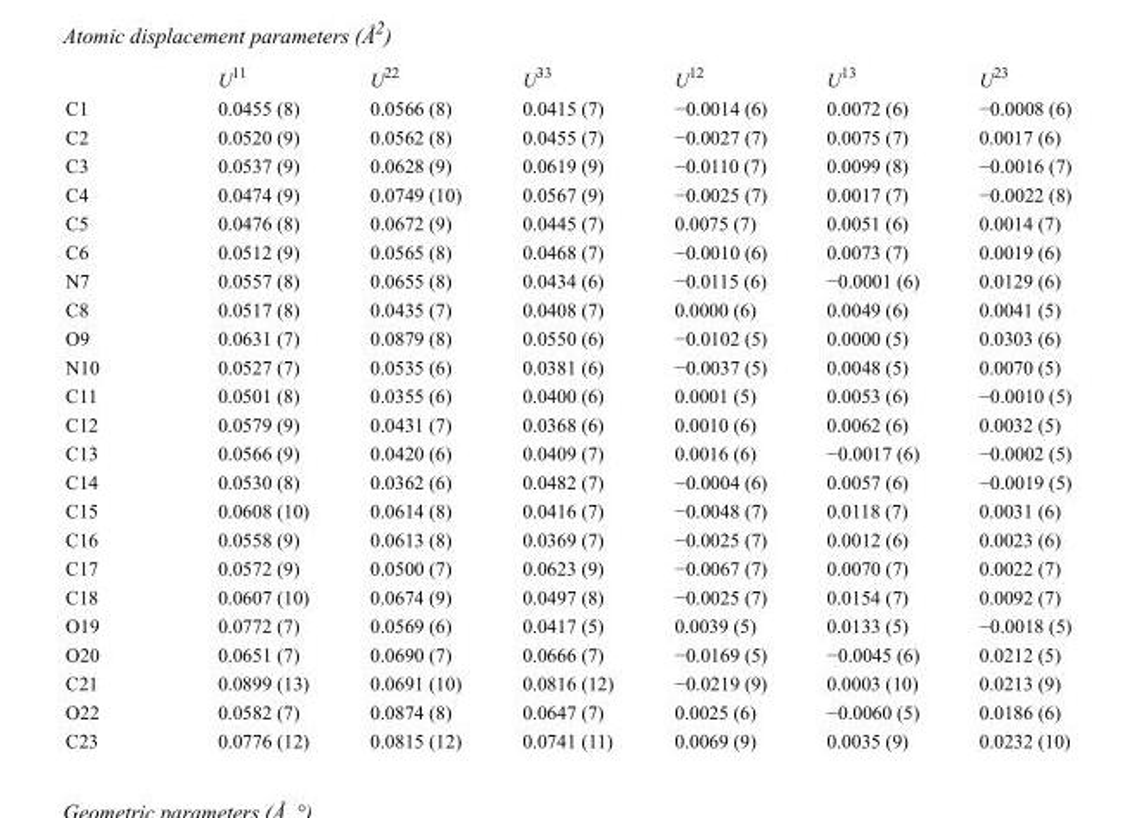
<table><thead><tr><td></td><td>U<sup>11</sup></td><td>U<sup>22</sup></td><td>U<sup>33</sup></td><td>U<sup>12</sup></td><td>U<sup>13</sup></td><td>U<sup>23</sup></td></tr></thead><tbody><tr><td>C1</td><td>0.0455 (8)</td><td>0.0566 (8)</td><td>0.0415 (7)</td><td>−0.0014 (6)</td><td>0.0072 (6)</td><td>−0.0008 (6)</td></tr><tr><td>C2</td><td>0.0520 (9)</td><td>0.0562 (8)</td><td>0.0455 (7)</td><td>−0.0027 (7)</td><td>0.0075 (7)</td><td>0.0017 (6)</td></tr><tr><td>C3</td><td>0.0537 (9)</td><td>0.0628 (9)</td><td>0.0619 (9)</td><td>−0.0110 (7)</td><td>0.0099 (8)</td><td>−0.0016 (7)</td></tr><tr><td>C4</td><td>0.0474 (9)</td><td>0.0749 (10)</td><td>0.0567 (9)</td><td>−0.0025 (7)</td><td>0.0017 (7)</td><td>−0.0022 (8)</td></tr><tr><td>C5</td><td>0.0476 (8)</td><td>0.0672 (9)</td><td>0.0445 (7)</td><td>0.0075 (7)</td><td>0.0051 (6)</td><td>0.0014 (7)</td></tr><tr><td>C6</td><td>0.0512 (9)</td><td>0.0565 (8)</td><td>0.0468 (7)</td><td>−0.0010 (6)</td><td>0.0073 (7)</td><td>0.0019 (6)</td></tr><tr><td>N7</td><td>0.0557 (8)</td><td>0.0655 (8)</td><td>0.0434 (6)</td><td>−0.0115 (6)</td><td>−0.0001 (6)</td><td>0.0129 (6)</td></tr><tr><td>C8</td><td>0.0517 (8)</td><td>0.0435 (7)</td><td>0.0408 (7)</td><td>0.0000 (6)</td><td>0.0049 (6)</td><td>0.0041 (5)</td></tr><tr><td>O9</td><td>0.0631 (7)</td><td>0.0879 (8)</td><td>0.0550 (6)</td><td>−0.0102 (5)</td><td>0.0000 (5)</td><td>0.0303 (6)</td></tr><tr><td>N10</td><td>0.0527 (7)</td><td>0.0535 (6)</td><td>0.0381 (6)</td><td>−0.0037 (5)</td><td>0.0048 (5)</td><td>0.0070 (5)</td></tr><tr><td>C11</td><td>0.0501 (8)</td><td>0.0355 (6)</td><td>0.0400 (6)</td><td>0.0001 (5)</td><td>0.0053 (6)</td><td>−0.0010 (5)</td></tr><tr><td>C12</td><td>0.0579 (9)</td><td>0.0431 (7)</td><td>0.0368 (6)</td><td>0.0010 (6)</td><td>0.0062 (6)</td><td>0.0032 (5)</td></tr><tr><td>C13</td><td>0.0566 (9)</td><td>0.0420 (6)</td><td>0.0409 (7)</td><td>0.0016 (6)</td><td>−0.0017 (6)</td><td>−0.0002 (5)</td></tr><tr><td>C14</td><td>0.0530 (8)</td><td>0.0362 (6)</td><td>0.0482 (7)</td><td>−0.0004 (6)</td><td>0.0057 (6)</td><td>−0.0019 (5)</td></tr><tr><td>C15</td><td>0.0608 (10)</td><td>0.0614 (8)</td><td>0.0416 (7)</td><td>−0.0048 (7)</td><td>0.0118 (7)</td><td>0.0031 (6)</td></tr><tr><td>C16</td><td>0.0558 (9)</td><td>0.0613 (8)</td><td>0.0369 (7)</td><td>−0.0025 (7)</td><td>0.0012 (6)</td><td>0.0023 (6)</td></tr><tr><td>C17</td><td>0.0572 (9)</td><td>0.0500 (7)</td><td>0.0623 (9)</td><td>−0.0067 (7)</td><td>0.0070 (7)</td><td>0.0022 (7)</td></tr><tr><td>C18</td><td>0.0607 (10)</td><td>0.0674 (9)</td><td>0.0497 (8)</td><td>−0.0025 (7)</td><td>0.0154 (7)</td><td>0.0092 (7)</td></tr><tr><td>O19</td><td>0.0772 (7)</td><td>0.0569 (6)</td><td>0.0417 (5)</td><td>0.0039 (5)</td><td>0.0133 (5)</td><td>−0.0018 (5)</td></tr><tr><td>O20</td><td>0.0651 (7)</td><td>0.0690 (7)</td><td>0.0666 (7)</td><td>−0.0169 (5)</td><td>−0.0045 (6)</td><td>0.0212 (5)</td></tr><tr><td>C21</td><td>0.0899 (13)</td><td>0.0691 (10)</td><td>0.0816 (12)</td><td>−0.0219 (9)</td><td>0.0003 (10)</td><td>0.0213 (9)</td></tr><tr><td>O22</td><td>0.0582 (7)</td><td>0.0874 (8)</td><td>0.0647 (7)</td><td>0.0025 (6)</td><td>−0.0060 (5)</td><td>0.0186 (6)</td></tr><tr><td>C23</td><td>0.0776 (12)</td><td>0.0815 (12)</td><td>0.0741 (11)</td><td>0.0069 (9)</td><td>0.0035 (9)</td><td>0.0232 (10)</td></tr></tbody></table>